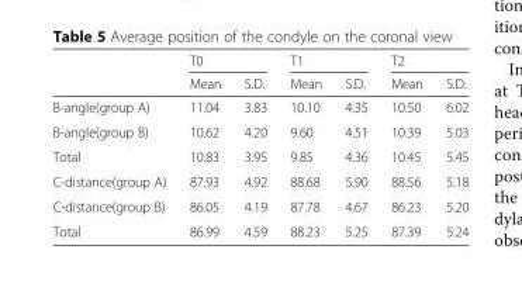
<table><thead><tr><td rowspan="2"></td><td colspan="2">T0</td><td colspan="2">T1</td><td colspan="2">T2</td></tr><tr><td>Mean</td><td>S.D.</td><td>Mean</td><td>S.D.</td><td>Mean</td><td>S.D.</td></tr></thead><tbody><tr><td>B-angle(group A)</td><td>11.04</td><td>3.83</td><td>10.10</td><td>4.35</td><td>10.50</td><td>6.02</td></tr><tr><td>B-angle(group B)</td><td>10.62</td><td>4.20</td><td>9.60</td><td>4.51</td><td>10.39</td><td>5.03</td></tr><tr><td>Total</td><td>10.83</td><td>3.95</td><td>9.85</td><td>4.36</td><td>10.45</td><td>5.45</td></tr><tr><td>C-distance(group A)</td><td>87.93</td><td>4.92</td><td>88.68</td><td>5.90</td><td>88.56</td><td>5.18</td></tr><tr><td>C-distance(group B)</td><td>86.05</td><td>4.19</td><td>87.78</td><td>4.67</td><td>86.23</td><td>5.20</td></tr><tr><td>Total</td><td>86.99</td><td>4.59</td><td>88.23</td><td>5.25</td><td>87.39</td><td>5.24</td></tr></tbody></table>